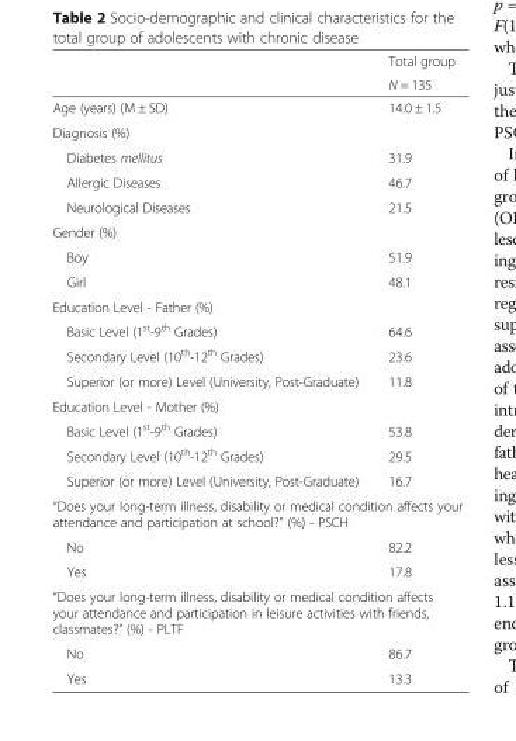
<table><thead><tr><td rowspan="2"></td><td rowspan="2">Total group N = 135</td></tr><tr></tr></thead><tbody><tr><td>Age (years) (M ± SD)</td><td>14.0 ± 1.5</td></tr><tr><td colspan="2">Diagnosis (%)</td></tr><tr><td>Diabetes mellitus</td><td>31.9</td></tr><tr><td>Allergic Diseases</td><td>46.7</td></tr><tr><td>Neurological Diseases</td><td>21.5</td></tr><tr><td colspan="2">Gender (%)</td></tr><tr><td>Boy</td><td>51.9</td></tr><tr><td>Girl</td><td>48.1</td></tr><tr><td colspan="2">Education Level - Father (%)</td></tr><tr><td>Basic Level (1<sup>st</sup>-9<sup>th</sup> Grades)</td><td>64.6</td></tr><tr><td>Secondary Level (10<sup>th</sup>-12<sup>th</sup> Grades)</td><td>23.6</td></tr><tr><td>Superior (or more) Level (University, Post-Graduate)</td><td>11.8</td></tr><tr><td colspan="2">Education Level - Mother (%)</td></tr><tr><td>Basic Level (1<sup>st</sup>-9<sup>th</sup> Grades)</td><td>53.8</td></tr><tr><td>Secondary Level (10<sup>th</sup>-12<sup>th</sup> Grades)</td><td>29.5</td></tr><tr><td>Superior (or more) Level (University, Post-Graduate)</td><td>16.7</td></tr><tr><td colspan="2">“Does your long-term illness, disability or medical condition affects your attendance and participation at school?” (%) - PSCH</td></tr><tr><td>No</td><td>82.2</td></tr><tr><td>Yes</td><td>17.8</td></tr><tr><td colspan="2">“Does your long-term illness, disability or medical condition affects your attendance and participation in leisure activities with friends, classmates?” (%) - PLTF</td></tr><tr><td>No</td><td>86.7</td></tr><tr><td>Yes</td><td>13.3</td></tr></tbody></table>